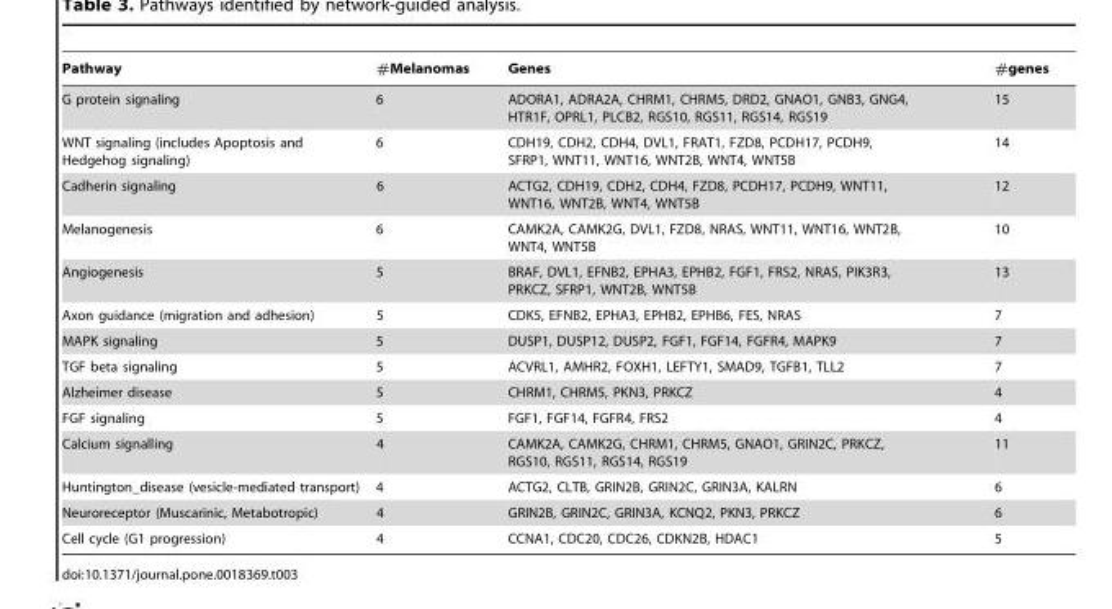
<table><thead><tr><td>Pathway</td><td>#Melanomas</td><td>Genes</td><td>#genes</td></tr></thead><tbody><tr><td>G protein signaling</td><td>6</td><td>ADORA1, ADRA2A, CHRM1, CHRM5, DRD2, GNAO1, GNB3, GNG4, HTR1F, OPRL1, PLCB2, RGS10, RGS11, RGS14, RGS19</td><td>15</td></tr><tr><td>WNT signaling (includes Apoptosis and Hedgehog signaling)</td><td>6</td><td>CDH19, CDH2, CDH4, DVL1, FRAT1, FZD8, PCDH17, PCDH9, SFRP1, WNT11, WNT16, WNT2B, WNT4, WNT5B</td><td>14</td></tr><tr><td>Cadherin signaling</td><td>6</td><td>ACTG2, CDH19, CDH2, CDH4, FZD8, PCDH17, PCDH9, WNT11, WNT16, WNT2B, WNT4, WNT5B</td><td>12</td></tr><tr><td>Melanogenesis</td><td>6</td><td>CAMK2A, CAMK2G, DVL1, FZD8, NRAS, WNT11, WNT16, WNT2B, WNT4, WNT5B</td><td>10</td></tr><tr><td>Angiogenesis</td><td>5</td><td>BRAF, DVL1, EFNB2, EPHA3, EPHB2, FGF1, FRS2, NRAS, PIK3R3, PRKCZ, SFRP1, WNT2B, WNT5B</td><td>13</td></tr><tr><td>Axon guidance (migration and adhesion)</td><td>5</td><td>CDK5, EFNB2, EPHA3, EPHB2, EPHB6, FES, NRAS</td><td>7</td></tr><tr><td>MAPK signaling</td><td>5</td><td>DUSP1, DUSP12, DUSP2, FGF1, FGF14, FGFR4, MAPK9</td><td>7</td></tr><tr><td>TGF beta signaling</td><td>5</td><td>ACVRL1, AMHR2, FOXH1, LEFTY1, SMAD9, TGFB1, TLL2</td><td>7</td></tr><tr><td>Alzheimer disease</td><td>5</td><td>CHRM1, CHRM5, PKN3, PRKCZ</td><td>4</td></tr><tr><td>FGF signaling</td><td>5</td><td>FGF1, FGF14, FGFR4, FRS2</td><td>4</td></tr><tr><td>Calcium signalling</td><td>4</td><td>CAMK2A, CAMK2G, CHRM1, CHRM5, GNAO1, GRIN2C, PRKCZ, RGS10, RGS11, RGS14, RGS19</td><td>11</td></tr><tr><td>Huntington_disease (vesicle-mediated transport)</td><td>4</td><td>ACTG2, CLTB, GRIN2B, GRIN2C, GRIN3A, KALRN</td><td>6</td></tr><tr><td>Neuroreceptor (Muscarinic, Metabotropic)</td><td>4</td><td>GRIN2B, GRIN2C, GRIN3A, KCNQ2, PKN3, PRKCZ</td><td>6</td></tr><tr><td>Cell cycle (G1 progression)</td><td>4</td><td>CCNA1, CDC20, CDC26, CDKN2B, HDAC1</td><td>5</td></tr></tbody></table>